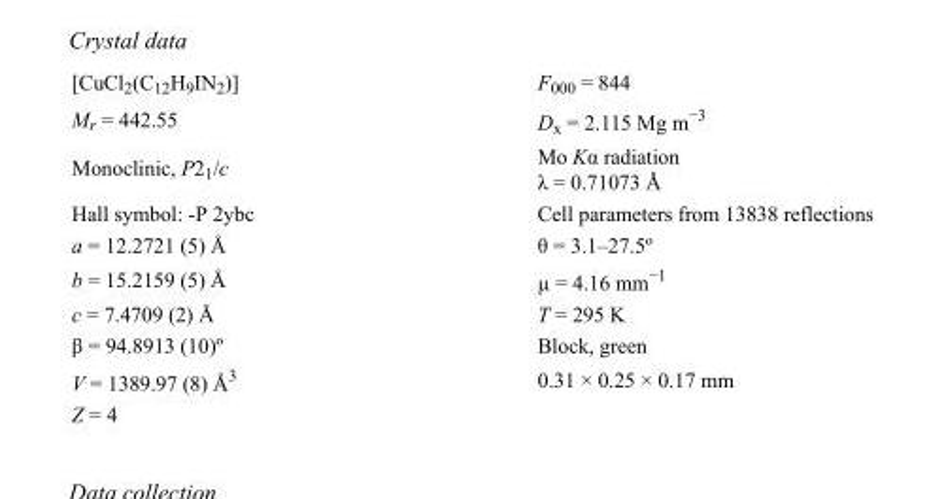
<table><tbody><tr><td>[CuCl<sub>2</sub>(C<sub>12</sub>H<sub>9</sub>IN<sub>2</sub>)]</td><td>F000 = 844</td></tr><tr><td>M<sub>r</sub> = 442.55</td><td>D<sub>x</sub> = 2.115 Mg m<sup>−3</sup></td></tr><tr><td>Monoclinic, P2<sub>1</sub>/c</td><td>Mo Kα radiation λ = 0.71073 Å</td></tr><tr><td>Hall symbol: -P 2ybc</td><td>Cell parameters from 13838 reflections</td></tr><tr><td>a = 12.2721 (5) Å</td><td>θ = 3.1–27.5º</td></tr><tr><td>b = 15.2159 (5) Å</td><td>µ = 4.16 mm<sup>−1</sup></td></tr><tr><td>c = 7.4709 (2) Å</td><td>T = 295 K</td></tr><tr><td>β = 94.8913 (10)º</td><td>Block, green</td></tr><tr><td>V = 1389.97 (8) Å<sup>3</sup></td><td>0.31 × 0.25 × 0.17 mm</td></tr><tr><td>Z = 4</td><td></td></tr></tbody></table>